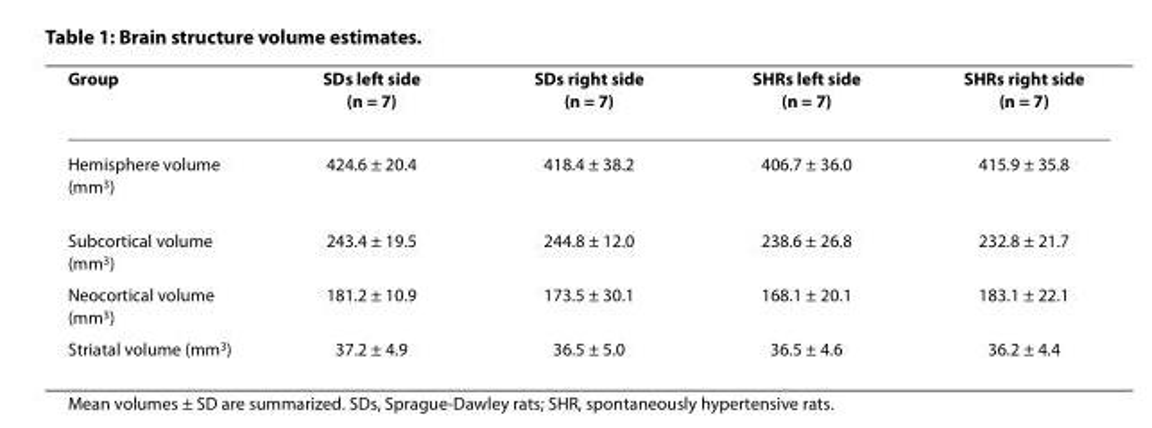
<table><thead><tr><td>Group</td><td>SDs left side (n = 7)</td><td>SDs right side (n = 7)</td><td>SHRs left side (n = 7)</td><td>SHRs right side (n = 7)</td></tr></thead><tbody><tr><td>Hemisphere volume (mm<sup>3</sup>)</td><td>424.6 ± 20.4</td><td>418.4 ± 38.2</td><td>406.7 ± 36.0</td><td>415.9 ± 35.8</td></tr><tr><td>Subcortical volume (mm<sup>3</sup>)</td><td>243.4 ± 19.5</td><td>244.8 ± 12.0</td><td>238.6 ± 26.8</td><td>232.8 ± 21.7</td></tr><tr><td>Neocortical volume (mm<sup>3</sup>)</td><td>181.2 ± 10.9</td><td>173.5 ± 30.1</td><td>168.1 ± 20.1</td><td>183.1 ± 22.1</td></tr><tr><td>Striatal volume (mm<sup>3</sup>)</td><td>37.2 ± 4.9</td><td>36.5 ± 5.0</td><td>36.5 ± 4.6</td><td>36.2 ± 4.4</td></tr></tbody></table>